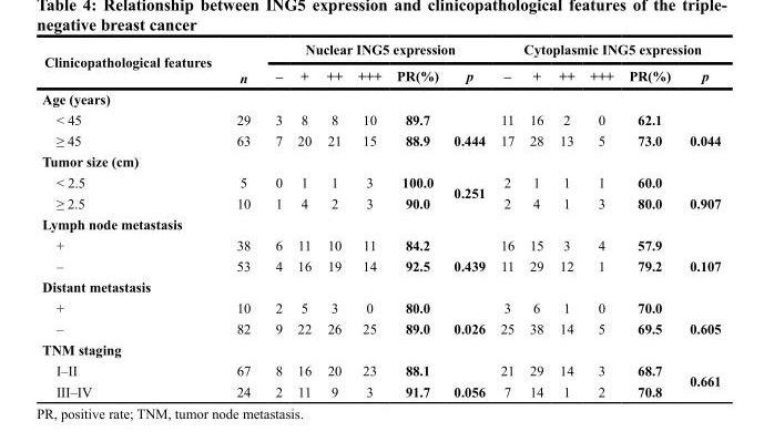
<table><thead><tr><td rowspan="2">Clinicopathological features</td><td rowspan="2">n</td><td colspan="6">Nuclear ING5 expression</td><td colspan="6">Cytoplasmic ING5 expression</td></tr><tr><td>–</td><td>+</td><td>++</td><td>+++</td><td>PR(%)</td><td>p</td><td>–</td><td>+</td><td>++</td><td>+++</td><td>PR(%)</td><td>p</td></tr></thead><tbody><tr><td colspan="14">Age (years)</td></tr><tr><td>&lt; 45</td><td>29</td><td>3</td><td>8</td><td>8</td><td>10</td><td>89.7</td><td rowspan="2">0.444</td><td>11</td><td>16</td><td>2</td><td>0</td><td>62.1</td><td rowspan="2">0.044</td></tr><tr><td>≥ 45</td><td>63</td><td>7</td><td>20</td><td>21</td><td>15</td><td>88.9</td><td>17</td><td>28</td><td>13</td><td>5</td><td>73.0</td></tr><tr><td colspan="14">Tumor size (cm)</td></tr><tr><td>&lt; 2.5</td><td>5</td><td>0</td><td>1</td><td>1</td><td>3</td><td>100.0</td><td rowspan="2">0.251</td><td>2</td><td>1</td><td>1</td><td>1</td><td>60.0</td><td rowspan="2">0.907</td></tr><tr><td>≥ 2.5</td><td>10</td><td>1</td><td>4</td><td>2</td><td>3</td><td>90.0</td><td>2</td><td>4</td><td>1</td><td>3</td><td>80.0</td></tr><tr><td colspan="14">Lymph node metastasis</td></tr><tr><td>+</td><td>38</td><td>6</td><td>11</td><td>10</td><td>11</td><td>84.2</td><td rowspan="2">0.439</td><td>16</td><td>15</td><td>3</td><td>4</td><td>57.9</td><td rowspan="2">0.107</td></tr><tr><td>–</td><td>53</td><td>4</td><td>16</td><td>19</td><td>14</td><td>92.5</td><td>11</td><td>29</td><td>12</td><td>1</td><td>79.2</td></tr><tr><td colspan="14">Distant metastasis</td></tr><tr><td>+</td><td>10</td><td>2</td><td>5</td><td>3</td><td>0</td><td>80.0</td><td rowspan="2">0.026</td><td>3</td><td>6</td><td>1</td><td>0</td><td>70.0</td><td rowspan="2">0.605</td></tr><tr><td>–</td><td>82</td><td>9</td><td>22</td><td>26</td><td>25</td><td>89.0</td><td>25</td><td>38</td><td>14</td><td>5</td><td>69.5</td></tr><tr><td colspan="14">TNM staging</td></tr><tr><td>I–II</td><td>67</td><td>8</td><td>16</td><td>20</td><td>23</td><td>88.1</td><td rowspan="2">0.056</td><td>21</td><td>29</td><td>14</td><td>3</td><td>68.7</td><td rowspan="2">0.661</td></tr><tr><td>III–IV</td><td>24</td><td>2</td><td>11</td><td>9</td><td>3</td><td>91.7</td><td>7</td><td>14</td><td>1</td><td>2</td><td>70.8</td></tr></tbody></table>